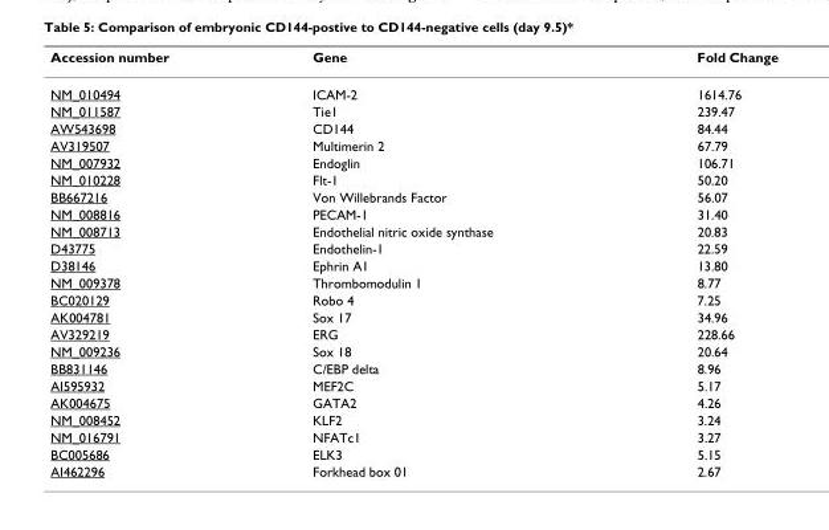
<table><thead><tr><td>Accession number</td><td>Gene</td><td>Fold Change</td></tr></thead><tbody><tr><td>NM_010494</td><td>ICAM-2</td><td>1614.76</td></tr><tr><td>NM_011587</td><td>Tie1</td><td>239.47</td></tr><tr><td>AW543698</td><td>CD144</td><td>84.44</td></tr><tr><td>AV319507</td><td>Multimerin 2</td><td>67.79</td></tr><tr><td>NM_007932</td><td>Endoglin</td><td>106.71</td></tr><tr><td>NM_010228</td><td>Flt-1</td><td>50.20</td></tr><tr><td>BB667216</td><td>Von Willebrands Factor</td><td>56.07</td></tr><tr><td>NM_008816</td><td>PECAM-1</td><td>31.40</td></tr><tr><td>NM_008713</td><td>Endothelial nitric oxide synthase</td><td>20.83</td></tr><tr><td>D43775</td><td>Endothelin-1</td><td>22.59</td></tr><tr><td>D38146</td><td>Ephrin A1</td><td>13.80</td></tr><tr><td>NM_009378</td><td>Thrombomodulin 1</td><td>8.77</td></tr><tr><td>BC020129</td><td>Robo 4</td><td>7.25</td></tr><tr><td>AK004781</td><td>Sox 17</td><td>34.96</td></tr><tr><td>AV329219</td><td>ERG</td><td>228.66</td></tr><tr><td>NM_009236</td><td>Sox 18</td><td>20.64</td></tr><tr><td>BB831146</td><td>C/EBP delta</td><td>8.96</td></tr><tr><td>AI595932</td><td>MEF2C</td><td>5.17</td></tr><tr><td>AK004675</td><td>GATA2</td><td>4.26</td></tr><tr><td>NM_008452</td><td>KLF2</td><td>3.24</td></tr><tr><td>NM_016791</td><td>NFATc1</td><td>3.27</td></tr><tr><td>BC005686</td><td>ELK3</td><td>5.15</td></tr><tr><td>AI462296</td><td>Forkhead box 01</td><td>2.67</td></tr></tbody></table>